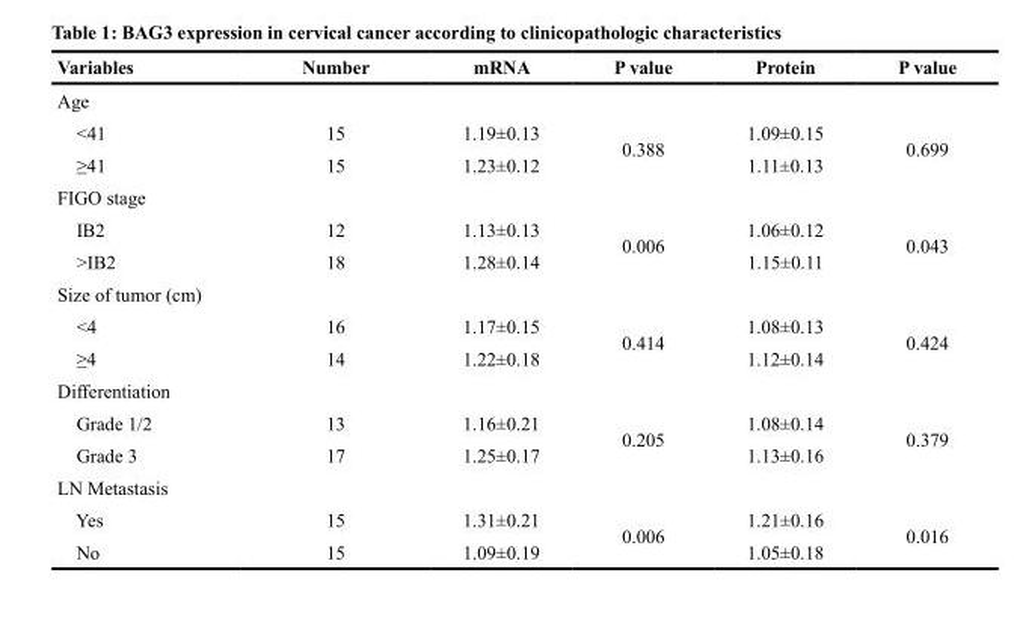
<table><thead><tr><td>Variables</td><td>Number</td><td>mRNA</td><td>P value</td><td>Protein</td><td>P value</td></tr></thead><tbody><tr><td colspan="6">Age</td></tr><tr><td>&lt;41</td><td>15</td><td>1.19±0.13</td><td rowspan="2">0.388</td><td>1.09±0.15</td><td rowspan="2">0.699</td></tr><tr><td>≥41</td><td>15</td><td>1.23±0.12</td><td>1.11±0.13</td></tr><tr><td colspan="6">FIGO stage</td></tr><tr><td>IB2</td><td>12</td><td>1.13±0.13</td><td rowspan="2">0.006</td><td>1.06±0.12</td><td rowspan="2">0.043</td></tr><tr><td>&gt;IB2</td><td>18</td><td>1.28±0.14</td><td>1.15±0.11</td></tr><tr><td colspan="6">Size of tumor (cm)</td></tr><tr><td>&lt;4</td><td>16</td><td>1.17±0.15</td><td rowspan="2">0.414</td><td>1.08±0.13</td><td rowspan="2">0.424</td></tr><tr><td>≥4</td><td>14</td><td>1.22±0.18</td><td>1.12±0.14</td></tr><tr><td colspan="6">Differentiation</td></tr><tr><td>Grade 1/2</td><td>13</td><td>1.16±0.21</td><td rowspan="2">0.205</td><td>1.08±0.14</td><td rowspan="2">0.379</td></tr><tr><td>Grade 3</td><td>17</td><td>1.25±0.17</td><td>1.13±0.16</td></tr><tr><td colspan="6">LN Metastasis</td></tr><tr><td>Yes</td><td>15</td><td>1.31±0.21</td><td rowspan="2">0.006</td><td>1.21±0.16</td><td rowspan="2">0.016</td></tr><tr><td>No</td><td>15</td><td>1.09±0.19</td><td>1.05±0.18</td></tr></tbody></table>